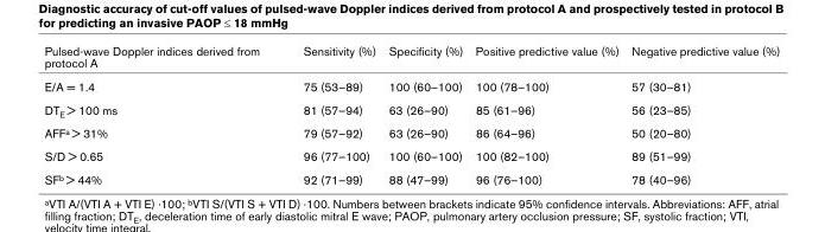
<table><thead><tr><td>Pulsed-wave Doppler indices derived from protocol A</td><td>Sensitivity (%)</td><td>Specificity (%)</td><td>Positive predictive value (%)</td><td>Negative predictive value (%)</td></tr></thead><tbody><tr><td>E/A = 1.4</td><td>75 (53–89)</td><td>100 (60–100)</td><td>100 (78–100)</td><td>57 (30–81)</td></tr><tr><td>DT<sub>E</sub> &gt; 100 ms</td><td>81 (57–94)</td><td>63 (26–90)</td><td>85 (61–96)</td><td>56 (23–85)</td></tr><tr><td>AFF<sup>a</sup> &gt; 31%</td><td>79 (57–92)</td><td>63 (26–90)</td><td>86 (64–96)</td><td>50 (20–80)</td></tr><tr><td>S/D &gt; 0.65</td><td>96 (77–100)</td><td>100 (60–100)</td><td>100 (82–100)</td><td>89 (51–99)</td></tr><tr><td>SF<sup>b</sup> &gt; 44%</td><td>92 (71–99)</td><td>88 (47–99)</td><td>96 (76–100)</td><td>78 (40–96)</td></tr></tbody></table>